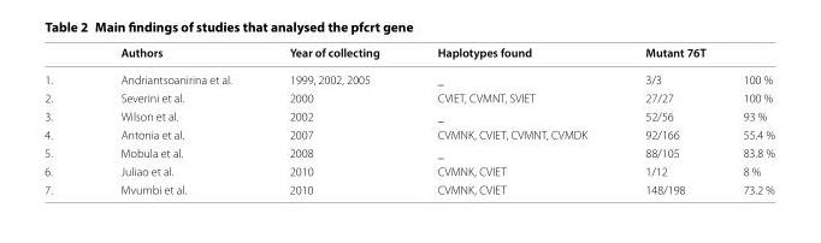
<table><thead><tr><td rowspan="2">1.</td><td rowspan="2">Authors Andriantsoanirina et al.</td><td rowspan="2">Year of collecting 1999, 2002, 2005</td><td rowspan="2">Haplotypes found _</td><td colspan="2">Mutant 76T</td></tr><tr><td>3/3</td><td>100 %</td></tr></thead><tbody><tr><td>2.</td><td>Severini et al.</td><td>2000</td><td>CVIET, CVMNT, SVIET</td><td>27/27</td><td>100 %</td></tr><tr><td>3.</td><td>Wilson et al.</td><td>2002</td><td>_</td><td>52/56</td><td>93 %</td></tr><tr><td>4.</td><td>Antonia et al.</td><td>2007</td><td>CVMNK, CVIET, CVMNT, CVMDK</td><td>92/166</td><td>55.4 %</td></tr><tr><td>5.</td><td>Mobula et al.</td><td>2008</td><td>_</td><td>88/105</td><td>83.8 %</td></tr><tr><td>6.</td><td>Juliao et al.</td><td>2010</td><td>CVMNK, CVIET</td><td>1/12</td><td>8 %</td></tr><tr><td>7.</td><td>Mvumbi et al.</td><td>2010</td><td>CVMNK, CVIET</td><td>148/198</td><td>73.2 %</td></tr></tbody></table>